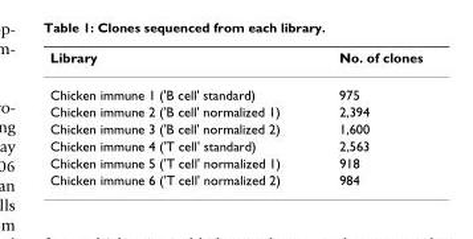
<table><thead><tr><td>Library</td><td>No. of clones</td></tr></thead><tbody><tr><td>Chicken immune 1 (&#x27;B cell&#x27; standard)</td><td>975</td></tr><tr><td>Chicken immune 2 (&#x27;B cell&#x27; normalized 1)</td><td>2,394</td></tr><tr><td>Chicken immune 3 (&#x27;B cell&#x27; normalized 2)</td><td>1,600</td></tr><tr><td>Chicken immune 4 (&#x27;T cell&#x27; standard)</td><td>2,563</td></tr><tr><td>Chicken immune 5 (&#x27;T cell&#x27; normalized 1)</td><td>918</td></tr><tr><td>Chicken immune 6 (&#x27;T cell&#x27; normalized 2)</td><td>984</td></tr></tbody></table>